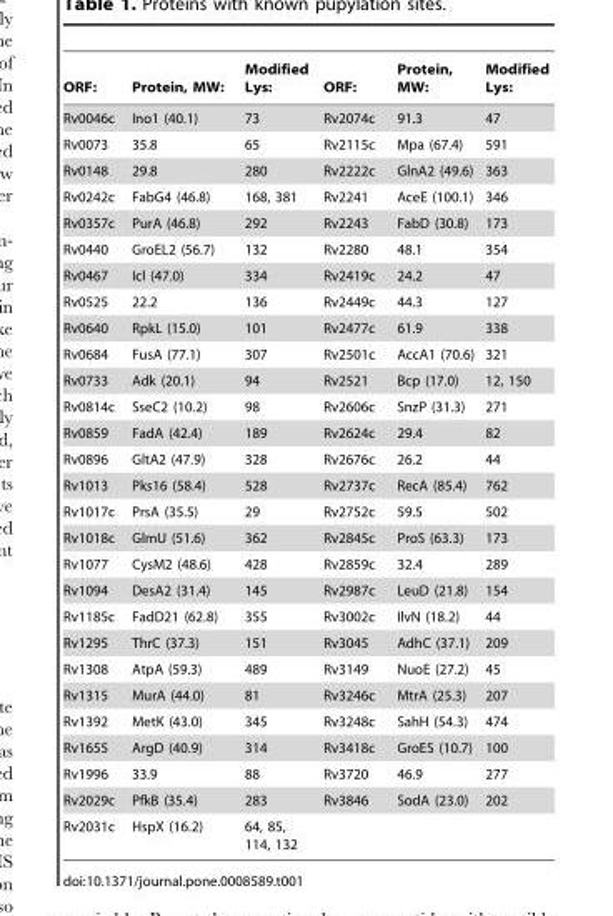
<table><thead><tr><td>ORF:</td><td>Protein, MW:</td><td>Modified Lys:</td><td>ORF:</td><td>Protein, MW:</td><td>Modified Lys:</td></tr></thead><tbody><tr><td>Rv0046c</td><td>Ino1 (40.1)</td><td>73</td><td>Rv2074c</td><td>91.3</td><td>47</td></tr><tr><td>Rv0073</td><td>35.8</td><td>65</td><td>Rv2115c</td><td>Mpa (67.4)</td><td>591</td></tr><tr><td>Rv0148</td><td>29.8</td><td>280</td><td>Rv2222c</td><td>GlnA2 (49.6)</td><td>363</td></tr><tr><td>Rv0242c</td><td>FabG4 (46.8)</td><td>168, 381</td><td>Rv2241</td><td>AceE (100.1)</td><td>346</td></tr><tr><td>Rv0357c</td><td>PurA (46.8)</td><td>292</td><td>Rv2243</td><td>FabD (30.8)</td><td>173</td></tr><tr><td>Rv0440</td><td>GroEL2 (56.7)</td><td>132</td><td>Rv2280</td><td>48.1</td><td>354</td></tr><tr><td>Rv0467</td><td>Icl (47.0)</td><td>334</td><td>Rv2419c</td><td>24.2</td><td>47</td></tr><tr><td>Rv0525</td><td>22.2</td><td>136</td><td>Rv2449c</td><td>44.3</td><td>127</td></tr><tr><td>Rv0640</td><td>RpkL (15.0)</td><td>101</td><td>Rv2477c</td><td>61.9</td><td>338</td></tr><tr><td>Rv0684</td><td>FusA (77.1)</td><td>307</td><td>Rv2501c</td><td>AccA1 (70.6)</td><td>321</td></tr><tr><td>Rv0733</td><td>Adk (20.1)</td><td>94</td><td>Rv2521</td><td>Bcp (17.0)</td><td>12, 150</td></tr><tr><td>Rv0814c</td><td>SseC2 (10.2)</td><td>98</td><td>Rv2606c</td><td>SnzP (31.3)</td><td>271</td></tr><tr><td>Rv0859</td><td>FadA (42.4)</td><td>189</td><td>Rv2624c</td><td>29.4</td><td>82</td></tr><tr><td>Rv0896</td><td>GltA2 (47.9)</td><td>328</td><td>Rv2676c</td><td>26.2</td><td>44</td></tr><tr><td>Rv1013</td><td>Pks16 (58.4)</td><td>528</td><td>Rv2737c</td><td>RecA (85.4)</td><td>762</td></tr><tr><td>Rv1017c</td><td>PrsA (35.5)</td><td>29</td><td>Rv2752c</td><td>59.5</td><td>502</td></tr><tr><td>Rv1018c</td><td>GlmU (51.6)</td><td>362</td><td>Rv2845c</td><td>ProS (63.3)</td><td>173</td></tr><tr><td>Rv1077</td><td>CysM2 (48.6)</td><td>428</td><td>Rv2859c</td><td>32.4</td><td>289</td></tr><tr><td>Rv1094</td><td>DesA2 (31.4)</td><td>145</td><td>Rv2987c</td><td>LeuD (21.8)</td><td>154</td></tr><tr><td>Rv1185c</td><td>FadD21 (62.8)</td><td>355</td><td>Rv3002c</td><td>IlvN (18.2)</td><td>44</td></tr><tr><td>Rv1295</td><td>ThrC (37.3)</td><td>151</td><td>Rv3045</td><td>AdhC (37.1)</td><td>209</td></tr><tr><td>Rv1308</td><td>AtpA (59.3)</td><td>489</td><td>Rv3149</td><td>NuoE (27.2)</td><td>45</td></tr><tr><td>Rv1315</td><td>MurA (44.0)</td><td>81</td><td>Rv3246c</td><td>MtrA (25.3)</td><td>207</td></tr><tr><td>Rv1392</td><td>MetK (43.0)</td><td>345</td><td>Rv3248c</td><td>SahH (54.3)</td><td>474</td></tr><tr><td>Rv1655</td><td>ArgD (40.9)</td><td>314</td><td>Rv3418c</td><td>GroES (10.7)</td><td>100</td></tr><tr><td>Rv1996</td><td>33.9</td><td>88</td><td>Rv3720</td><td>46.9</td><td>277</td></tr><tr><td>Rv2029c</td><td>PfkB (35.4)</td><td>283</td><td>Rv3846</td><td>SodA (23.0)</td><td>202</td></tr><tr><td>Rv2031c</td><td>HspX (16.2)</td><td colspan="2">64, 85, 114, 132</td><td></td><td></td></tr></tbody></table>